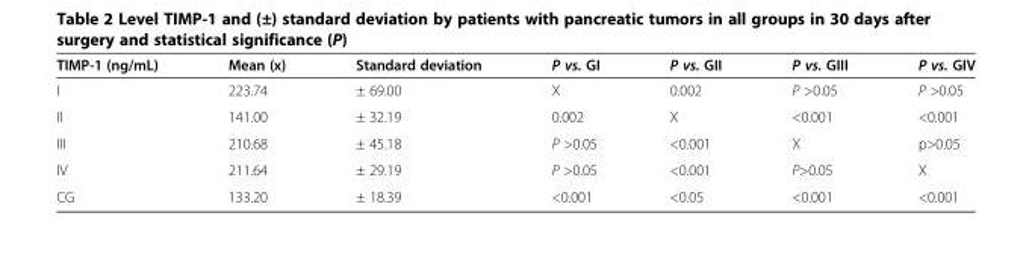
<table><thead><tr><td>TIMP-1 (ng/mL)</td><td>Mean (x)</td><td>Standard deviation</td><td>P vs. GI</td><td>P vs. GII</td><td>P vs. GIII</td><td>P vs. GIV</td></tr></thead><tbody><tr><td>I</td><td>223.74</td><td>± 69.00</td><td>X</td><td>0.002</td><td>P &gt;0.05</td><td>P &gt;0.05</td></tr><tr><td>II</td><td>141.00</td><td>± 32.19</td><td>0.002</td><td>X</td><td>&lt;0.001</td><td>&lt;0.001</td></tr><tr><td>III</td><td>210.68</td><td>± 45.18</td><td>P &gt;0.05</td><td>&lt;0.001</td><td>X</td><td>p&gt;0.05</td></tr><tr><td>IV</td><td>211.64</td><td>± 29.19</td><td>P &gt;0.05</td><td>&lt;0.001</td><td>P&gt;0.05</td><td>X</td></tr><tr><td>CG</td><td>133.20</td><td>± 18.39</td><td>&lt;0.001</td><td>&lt;0.05</td><td>&lt;0.001</td><td>&lt;0.001</td></tr></tbody></table>